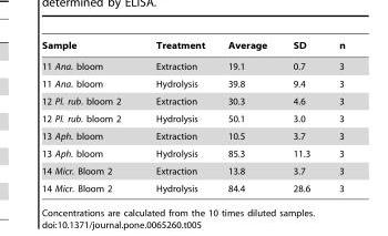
<table><thead><tr><td>Sample</td><td>Treatment</td><td>Average</td><td>SD</td><td>n</td></tr></thead><tbody><tr><td>11 Ana. bloom</td><td>Extraction</td><td>19.1</td><td>0.7</td><td>3</td></tr><tr><td>11 Ana. bloom</td><td>Hydrolysis</td><td>39.8</td><td>9.4</td><td>3</td></tr><tr><td>12 Pl. rub. bloom 2</td><td>Extraction</td><td>30.3</td><td>4.6</td><td>3</td></tr><tr><td>12 Pl. rub. bloom 2</td><td>Hydrolysis</td><td>50.1</td><td>3.0</td><td>3</td></tr><tr><td>13 Aph. bloom</td><td>Extraction</td><td>10.5</td><td>3.7</td><td>3</td></tr><tr><td>13 Aph. bloom</td><td>Hydrolysis</td><td>85.3</td><td>11.3</td><td>3</td></tr><tr><td>14 Micr. Bloom 2</td><td>Extraction</td><td>13.8</td><td>3.7</td><td>3</td></tr><tr><td>14 Micr. Bloom 2</td><td>Hydrolysis</td><td>84.4</td><td>28.6</td><td>3</td></tr></tbody></table>